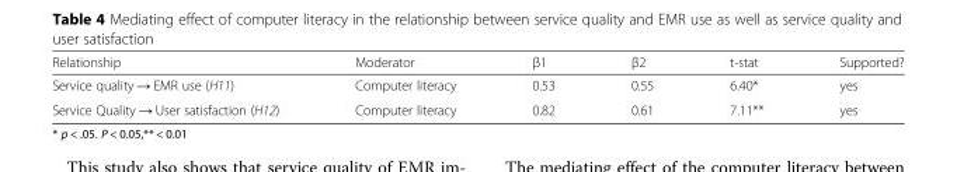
<table><thead><tr><td>Relationship</td><td>Moderator</td><td>β1</td><td>β2</td><td>t-stat</td><td>Supported?</td></tr></thead><tbody><tr><td>Service quality → EMR use (H11)</td><td>Computer literacy</td><td>0.53</td><td>0.55</td><td>6.40*</td><td>yes</td></tr><tr><td>Service Quality → User satisfaction (H12)</td><td>Computer literacy</td><td>0.82</td><td>0.61</td><td>7.11**</td><td>yes</td></tr></tbody></table>